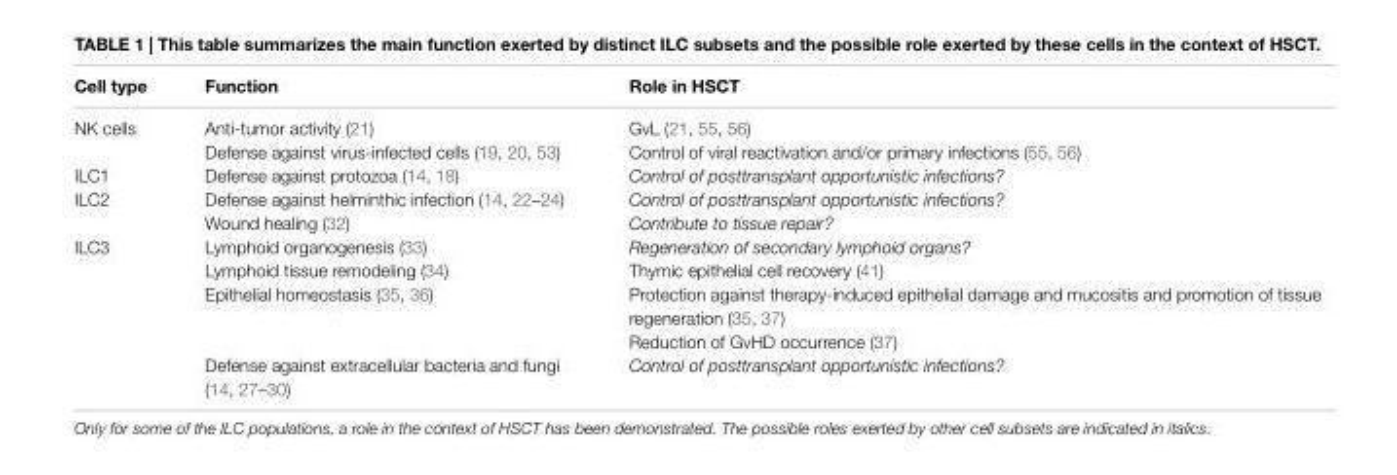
<table><thead><tr><td>Cell type</td><td>Function</td><td>Role in HSCT</td></tr></thead><tbody><tr><td rowspan="2">NK cells</td><td>Anti-tumor activity (21)</td><td>GvL (21, 55, 56)</td></tr><tr><td>Defense against virus-infected cells (19, 20, 53)</td><td>Control of viral reactivation and/or primary infections (55, 56)</td></tr><tr><td>ILC1</td><td>Defense against protozoa (14, 18)</td><td>Control of posttransplant opportunistic infections?</td></tr><tr><td rowspan="2">ILC2</td><td>Defense against helminthic infection (14, 22–24)</td><td>Control of posttransplant opportunistic infections?</td></tr><tr><td>Wound healing (32)</td><td>Contribute to tissue repair?</td></tr><tr><td rowspan="5">ILC3</td><td>Lymphoid organogenesis (33)</td><td>Regeneration of secondary lymphoid organs?</td></tr><tr><td>Lymphoid tissue remodeling (34)</td><td>Thymic epithelial cell recovery (41)</td></tr><tr><td rowspan="2">Epithelial homeostasis (35, 36)</td><td>Protection against therapy-induced epithelial damage and mucositis and promotion of tissue regeneration (35, 37)</td></tr><tr><td>Reduction of GvHD occurrence (37)</td></tr><tr><td>Defense against extracellular bacteria and fungi (14, 27–30)</td><td>Control of posttransplant opportunistic infections?</td></tr></tbody></table>